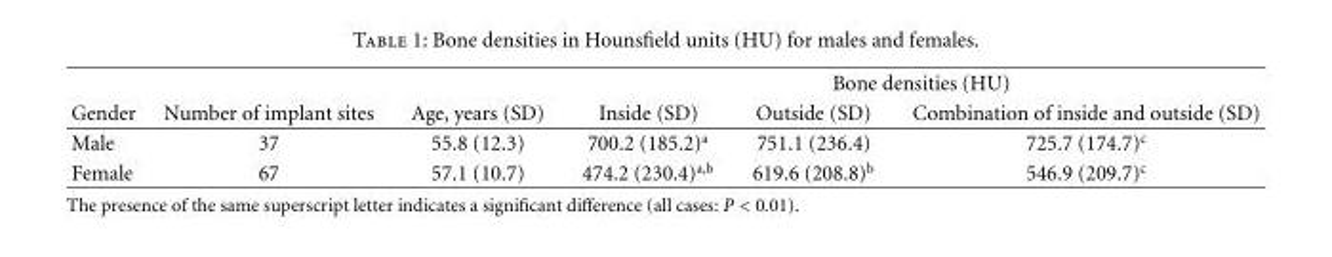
<table><thead><tr><td rowspan="2">Gender</td><td rowspan="2">Number of implant sites</td><td rowspan="2">Age, years (SD)</td><td colspan="3">Bone densities (HU)</td></tr><tr><td>Inside (SD)</td><td>Outside (SD)</td><td>Combination of inside and outside (SD)</td></tr></thead><tbody><tr><td>Male</td><td>37</td><td>55.8 (12.3)</td><td>700.2 (185.2)<sup>a</sup></td><td>751.1 (236.4)</td><td>725.7 (174.7)<sup>c</sup></td></tr><tr><td>Female</td><td>67</td><td>57.1 (10.7)</td><td>474.2 (230.4)<sup>a,b</sup></td><td>619.6 (208.8)<sup>b</sup></td><td>546.9 (209.7)<sup>c</sup></td></tr></tbody></table>